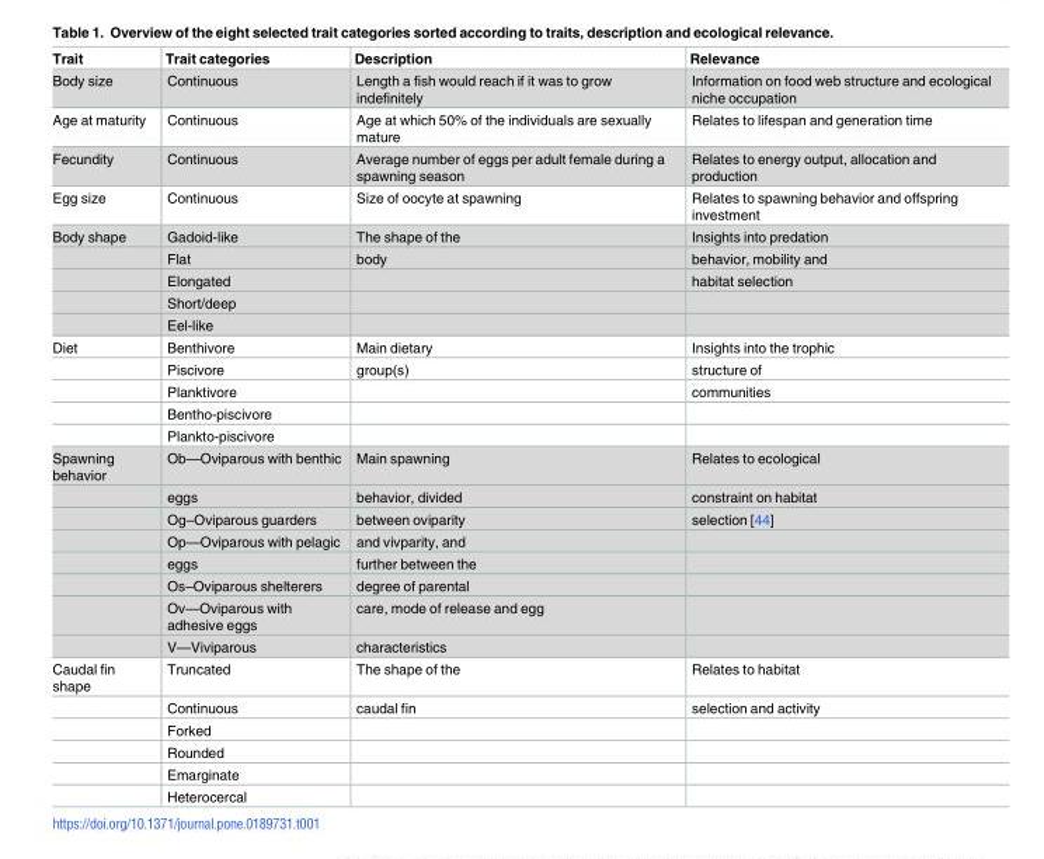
<table><thead><tr><td>Trait</td><td>Trait categories</td><td>Description</td><td>Relevance</td></tr></thead><tbody><tr><td>Body size</td><td>Continuous</td><td>Length a fish would reach if it was to grow indefinitely</td><td>Information on food web structure and ecological niche occupation</td></tr><tr><td>Age at maturity</td><td>Continuous</td><td>Age at which 50% of the individuals are sexually mature</td><td>Relates to lifespan and generation time</td></tr><tr><td>Fecundity</td><td>Continuous</td><td>Average number of eggs per adult female during a spawning season</td><td>Relates to energy output, allocation and production</td></tr><tr><td>Egg size</td><td>Continuous</td><td>Size of oocyte at spawning</td><td>Relates to spawning behavior and offspring investment</td></tr><tr><td rowspan="5">Body shape</td><td>Gadoid-like</td><td>The shape of the</td><td>Insights into predation</td></tr><tr><td>Flat</td><td>body</td><td>behavior, mobility and</td></tr><tr><td>Elongated</td><td></td><td>habitat selection</td></tr><tr><td>Short/deep</td><td></td><td></td></tr><tr><td>Eel-like</td><td></td><td></td></tr><tr><td rowspan="5">Diet</td><td>Benthivore</td><td>Main dietary</td><td>Insights into the trophic</td></tr><tr><td>Piscivore</td><td>group(s)</td><td>structure of</td></tr><tr><td>Planktivore</td><td></td><td>communities</td></tr><tr><td>Bentho-piscivore</td><td></td><td></td></tr><tr><td>Plankto-piscivore</td><td></td><td></td></tr><tr><td rowspan="8">Spawning behavior</td><td>Ob—Oviparous with benthic</td><td>Main spawning</td><td>Relates to ecological</td></tr><tr><td>eggs</td><td>behavior, divided</td><td>constraint on habitat</td></tr><tr><td>Og–Oviparous guarders</td><td>between oviparity</td><td>selection [44]</td></tr><tr><td>Op—Oviparous with pelagic</td><td>and vivparity, and</td><td></td></tr><tr><td>eggs</td><td>further between the</td><td></td></tr><tr><td>Os–Oviparous shelterers</td><td>degree of parental</td><td></td></tr><tr><td>Ov—Oviparous with adhesive eggs</td><td>care, mode of release and egg</td><td></td></tr><tr><td>V—Viviparous</td><td>characteristics</td><td></td></tr><tr><td rowspan="6">Caudal fin shape</td><td>Truncated</td><td>The shape of the</td><td>Relates to habitat</td></tr><tr><td>Continuous</td><td>caudal fin</td><td>selection and activity</td></tr><tr><td>Forked</td><td></td><td></td></tr><tr><td>Rounded</td><td></td><td></td></tr><tr><td>Emarginate</td><td></td><td></td></tr><tr><td>Heterocercal</td><td></td><td></td></tr></tbody></table>